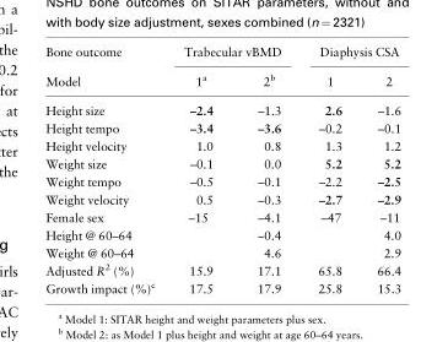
<table><thead><tr><td rowspan="2">Bone outcome Model</td><td colspan="2">Trabecular vBMD</td><td colspan="2">Diaphysis CSA</td></tr><tr><td>1<sup>a</sup></td><td>2<sup>b</sup></td><td>1</td><td>2</td></tr></thead><tbody><tr><td>Height size</td><td>–2.4</td><td>–1.3</td><td>2.6</td><td>–1.6</td></tr><tr><td>Height tempo</td><td>–3.4</td><td>–3.6</td><td>–0.2</td><td>–0.1</td></tr><tr><td>Height velocity</td><td>1.0</td><td>0.8</td><td>1.3</td><td>1.2</td></tr><tr><td>Weight size</td><td>–0.1</td><td>0.0</td><td>5.2</td><td>5.2</td></tr><tr><td>Weight tempo</td><td>–0.5</td><td>–0.1</td><td>–2.2</td><td>–2.5</td></tr><tr><td>Weight velocity</td><td>0.5</td><td>–0.3</td><td>–2.7</td><td>–2.9</td></tr><tr><td>Female sex</td><td>–15</td><td>–4.1</td><td>–47</td><td>–11</td></tr><tr><td>Height @ 60–64</td><td></td><td>–0.4</td><td></td><td>4.0</td></tr><tr><td>Weight @ 60–64</td><td></td><td>4.6</td><td></td><td>2.9</td></tr><tr><td>Adjusted R<sup>2</sup> (%)</td><td>15.9</td><td>17.1</td><td>65.8</td><td>66.4</td></tr><tr><td>Growth impact (%)<sup>c</sup></td><td>17.5</td><td>17.9</td><td>25.8</td><td>15.3</td></tr></tbody></table>